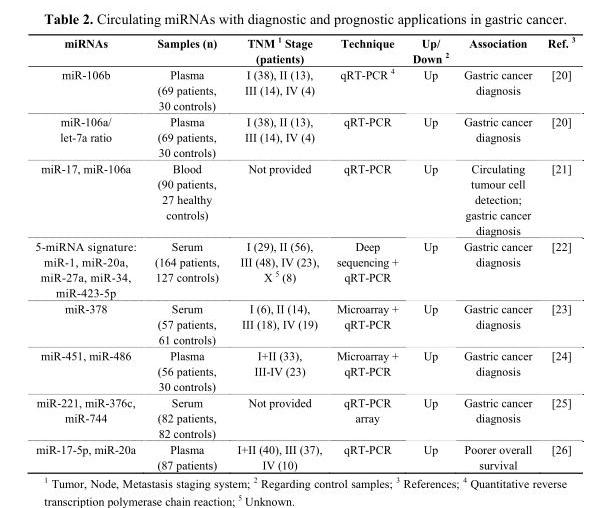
<table><thead><tr><td>miRNAs</td><td>Samples (n)</td><td>TNM <sup>1</sup> Stage (patients)</td><td>Technique</td><td>Up/ Down <sup>2</sup></td><td>Association</td><td>Ref. <sup>3</sup></td></tr></thead><tbody><tr><td>miR-106b</td><td>Plasma (69 patients, 30 controls)</td><td>I (38), II (13), III (14), IV (4)</td><td>qRT-PCR <sup>4</sup></td><td>Up</td><td>Gastric cancer diagnosis</td><td>[20]</td></tr><tr><td>miR-106a/ let-7a ratio</td><td>Plasma (69 patients, 30 controls)</td><td>I (38), II (13), III (14), IV (4)</td><td>qRT-PCR</td><td>Up</td><td>Gastric cancer diagnosis</td><td>[20]</td></tr><tr><td>miR-17, miR-106a</td><td>Blood (90 patients, 27 healthy controls)</td><td>Not provided</td><td>qRT-PCR</td><td>Up</td><td>Circulating tumour cell detection; gastric cancer diagnosis</td><td>[21]</td></tr><tr><td>5-miRNA signature: miR-1, miR-20a, miR-27a, miR-34, miR-423-5p</td><td>Serum (164 patients, 127 controls)</td><td>I (29), II (56), III (48), IV (23), X <sup>5</sup> (8)</td><td>Deep sequencing + qRT-PCR</td><td>Up</td><td>Gastric cancer diagnosis</td><td>[22]</td></tr><tr><td>miR-378</td><td>Serum (57 patients, 61 controls)</td><td>I (6), II (14), III (18), IV (19)</td><td>Microarray + qRT-PCR</td><td>Up</td><td>Gastric cancer diagnosis</td><td>[23]</td></tr><tr><td>miR-451, miR-486</td><td>Plasma (56 patients, 30 controls)</td><td>I+II (33), III-IV (23)</td><td>Microarray + qRT-PCR</td><td>Up</td><td>Gastric cancer diagnosis</td><td>[24]</td></tr><tr><td>miR-221, miR-376c, miR-744</td><td>Serum (82 patients, 82 controls)</td><td>Not provided</td><td>qRT-PCR array</td><td>Up</td><td>Gastric cancer diagnosis</td><td>[25]</td></tr><tr><td>miR-17-5p, miR-20a</td><td>Plasma (87 patients)</td><td>I+II (40), III (37), IV (10)</td><td>qRT-PCR</td><td>Up</td><td>Poorer overall survival</td><td>[26]</td></tr></tbody></table>